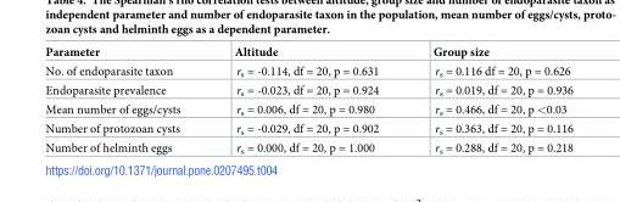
<table><thead><tr><td>Parameter</td><td>Altitude</td><td>Group size</td></tr></thead><tbody><tr><td>No. of endoparasite taxon</td><td>r<sub>s</sub> = -0.114, df = 20, p = 0.631</td><td>r<sub>s</sub> = 0.116 df = 20, p = 0.626</td></tr><tr><td>Endoparasite prevalence</td><td>r<sub>s</sub> = -0.023, df = 20, p = 0.924</td><td>r<sub>s</sub> = 0.019, df = 20, p = 0.936</td></tr><tr><td>Mean number of eggs/cysts</td><td>r<sub>s</sub> = 0.006, df = 20, p = 0.980</td><td>r<sub>s</sub> = 0.466, df = 20, p &lt;0.03</td></tr><tr><td>Number of protozoan cysts</td><td>r<sub>s</sub> = -0.029, df = 20, p = 0.902</td><td>r<sub>s</sub> = 0.363, df = 20, p = 0.116</td></tr><tr><td>Number of helminth eggs</td><td>r<sub>s</sub> = 0.000, df = 20, p = 1.000</td><td>r<sub>s</sub> = 0.288, df = 20, p = 0.218</td></tr></tbody></table>